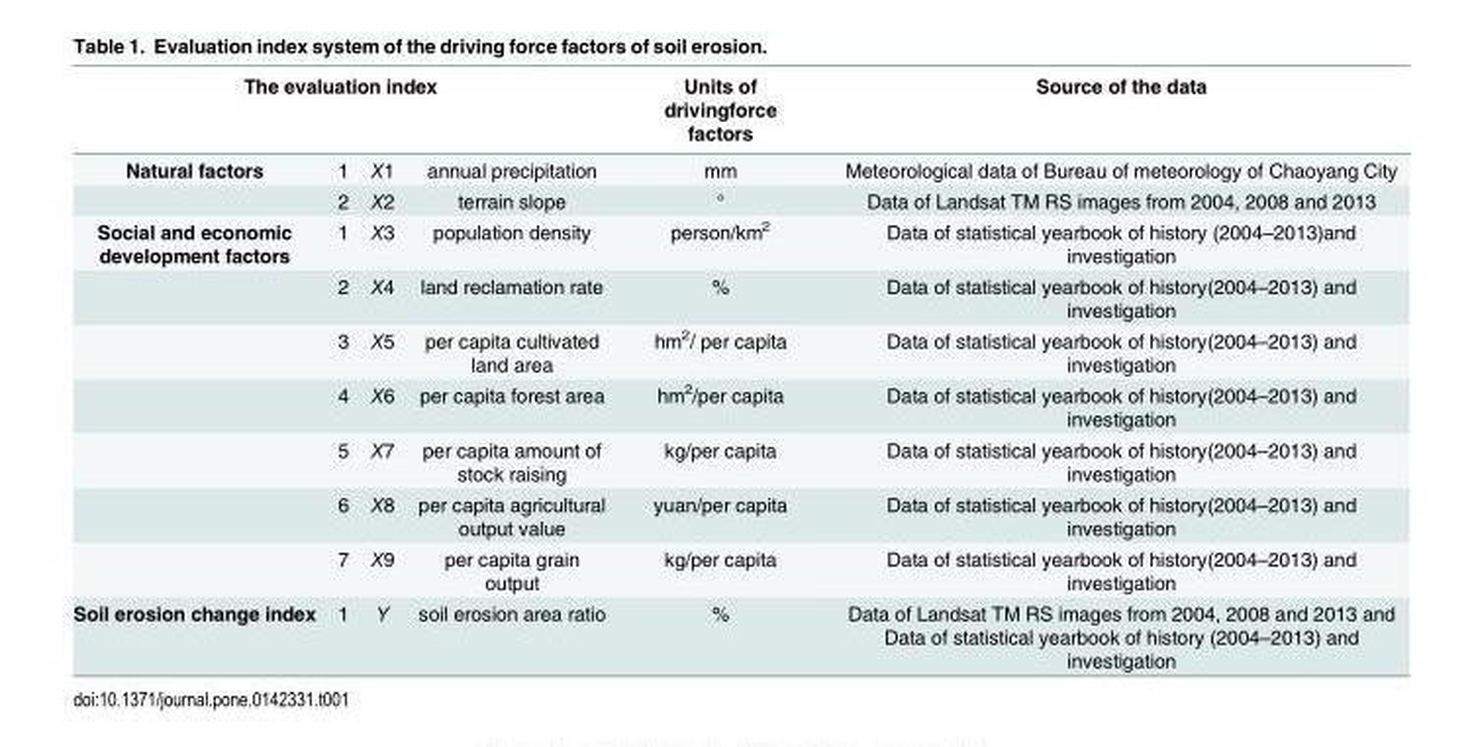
<table><thead><tr><td colspan="4">The evaluation index</td><td rowspan="2">Units of drivingforce factors mm</td><td rowspan="2">Source of the data Meteorological data of Bureau of meteorology of Chaoyang City</td></tr><tr><td>Natural factors</td><td>1</td><td>X1</td><td>annual precipitation</td></tr></thead><tbody><tr><td></td><td>2</td><td>X2</td><td>terrain slope</td><td>°</td><td>Data of Landsat TM RS images from 2004, 2008 and 2013</td></tr><tr><td rowspan="7">Social and economic development factors</td><td>1</td><td>X3</td><td>population density</td><td>person/km<sup>2</sup></td><td>Data of statistical yearbook of history (2004–2013)and investigation</td></tr><tr><td>2</td><td>X4</td><td>land reclamation rate</td><td>%</td><td>Data of statistical yearbook of history(2004–2013) and investigation</td></tr><tr><td>3</td><td>X5</td><td>per capita cultivated land area</td><td>hm<sup>2</sup>/ per capita</td><td>Data of statistical yearbook of history(2004–2013) and investigation</td></tr><tr><td>4</td><td>X6</td><td>per capita forest area</td><td>hm<sup>2</sup>/per capita</td><td>Data of statistical yearbook of history(2004–2013) and investigation</td></tr><tr><td>5</td><td>X7</td><td>per capita amount of stock raising</td><td>kg/per capita</td><td>Data of statistical yearbook of history(2004–2013) and investigation</td></tr><tr><td>6</td><td>X8</td><td>per capita agricultural output value</td><td>yuan/per capita</td><td>Data of statistical yearbook of history(2004–2013) and investigation</td></tr><tr><td>7</td><td>X9</td><td>per capita grain output</td><td>kg/per capita</td><td>Data of statistical yearbook of history(2004–2013) and investigation</td></tr><tr><td>Soil erosion change index</td><td>1</td><td>Y</td><td>soil erosion area ratio</td><td>%</td><td>Data of Landsat TM RS images from 2004, 2008 and 2013 and Data of statistical yearbook of history (2004–2013) and investigation</td></tr></tbody></table>